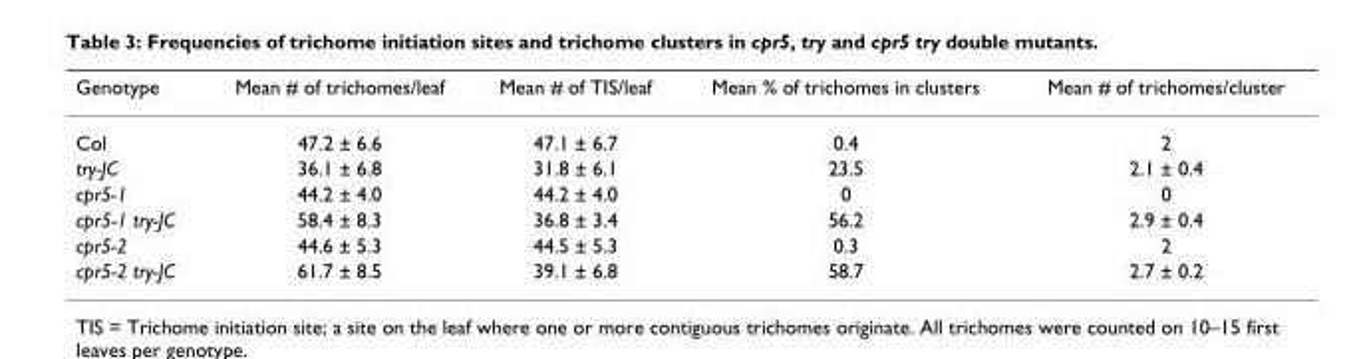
<table><thead><tr><td>Genotype</td><td>Mean # of trichomes/leaf</td><td>Mean # of TIS/leaf</td><td>Mean % of trichomes in clusters</td><td>Mean # of trichomes/cluster</td></tr></thead><tbody><tr><td>Col</td><td>47.2 ± 6.6</td><td>47.1 ± 6.7</td><td>0.4</td><td>2</td></tr><tr><td>try-JC</td><td>36.1 ± 6.8</td><td>31.8 ± 6.1</td><td>23.5</td><td>2.1 ± 0.4</td></tr><tr><td>cpr5-1</td><td>44.2 ± 4.0</td><td>44.2 ± 4.0</td><td>0</td><td>0</td></tr><tr><td>cpr5-1 try-JC</td><td>58.4 ± 8.3</td><td>36.8 ± 3.4</td><td>56.2</td><td>2.9 ± 0.4</td></tr><tr><td>cpr5-2</td><td>44.6 ± 5.3</td><td>44.5 ± 5.3</td><td>0.3</td><td>2</td></tr><tr><td>cpr5-2 try-JC</td><td>61.7 ± 8.5</td><td>39.1 ± 6.8</td><td>58.7</td><td>2.7 ± 0.2</td></tr></tbody></table>